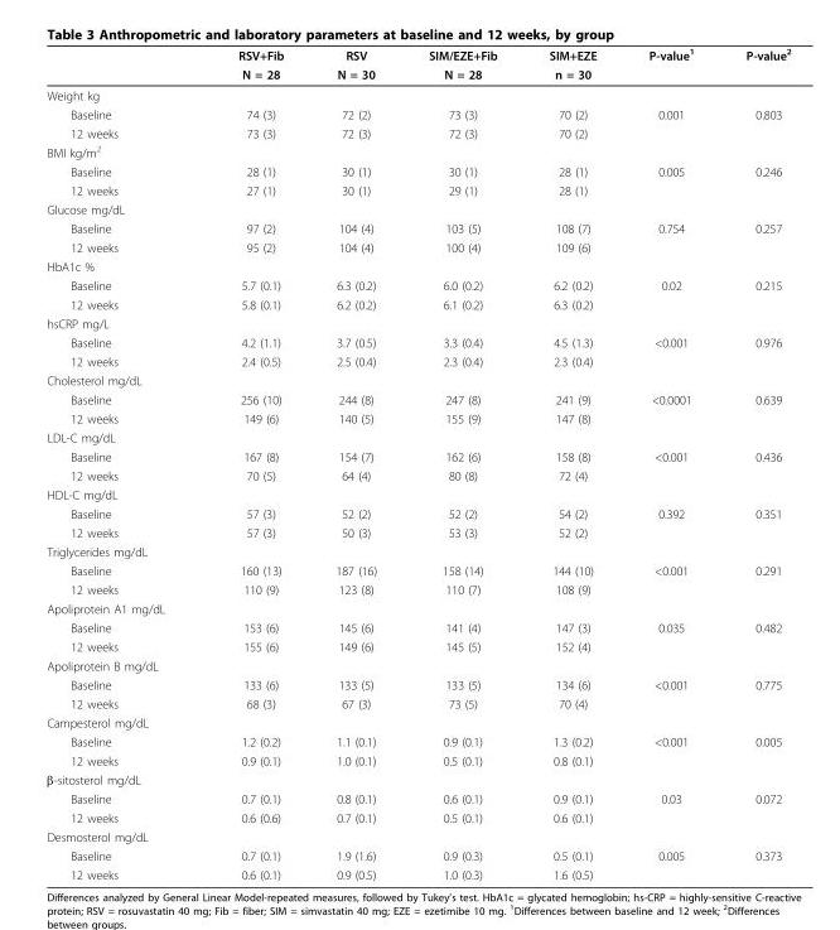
<table><thead><tr><td rowspan="2"></td><td rowspan="2">RSV+Fib N = 28</td><td rowspan="2">RSV N = 30</td><td rowspan="2">SIM/EZE+Fib N = 28</td><td rowspan="2">SIM+EZE n = 30</td><td rowspan="2">P-value<sup>1</sup></td><td rowspan="2">P-value<sup>2</sup></td></tr><tr></tr></thead><tbody><tr><td colspan="7">Weight kg</td></tr><tr><td>Baseline</td><td>74 (3)</td><td>72 (2)</td><td>73 (3)</td><td>70 (2)</td><td>0.001</td><td>0.803</td></tr><tr><td>12 weeks</td><td>73 (3)</td><td>72 (3)</td><td>72 (3)</td><td>70 (2)</td><td></td><td></td></tr><tr><td colspan="7">BMI kg/m<sup>2</sup></td></tr><tr><td>Baseline</td><td>28 (1)</td><td>30 (1)</td><td>30 (1)</td><td>28 (1)</td><td>0.005</td><td>0.246</td></tr><tr><td>12 weeks</td><td>27 (1)</td><td>30 (1)</td><td>29 (1)</td><td>28 (1)</td><td></td><td></td></tr><tr><td colspan="7">Glucose mg/dL</td></tr><tr><td>Baseline</td><td>97 (2)</td><td>104 (4)</td><td>103 (5)</td><td>108 (7)</td><td>0.754</td><td>0.257</td></tr><tr><td>12 weeks</td><td>95 (2)</td><td>104 (4)</td><td>100 (4)</td><td>109 (6)</td><td></td><td></td></tr><tr><td colspan="7">HbA1c %</td></tr><tr><td>Baseline</td><td>5.7 (0.1)</td><td>6.3 (0.2)</td><td>6.0 (0.2)</td><td>6.2 (0.2)</td><td>0.02</td><td>0.215</td></tr><tr><td>12 weeks</td><td>5.8 (0.1)</td><td>6.2 (0.2)</td><td>6.1 (0.2)</td><td>6.3 (0.2)</td><td></td><td></td></tr><tr><td colspan="7">hsCRP mg/L</td></tr><tr><td>Baseline</td><td>4.2 (1.1)</td><td>3.7 (0.5)</td><td>3.3 (0.4)</td><td>4.5 (1.3)</td><td>&lt;0.001</td><td>0.976</td></tr><tr><td>12 weeks</td><td>2.4 (0.5)</td><td>2.5 (0.4)</td><td>2.3 (0.4)</td><td>2.3 (0.4)</td><td></td><td></td></tr><tr><td colspan="7">Cholesterol mg/dL</td></tr><tr><td>Baseline</td><td>256 (10)</td><td>244 (8)</td><td>247 (8)</td><td>241 (9)</td><td>&lt;0.0001</td><td>0.639</td></tr><tr><td>12 weeks</td><td>149 (6)</td><td>140 (5)</td><td>155 (9)</td><td>147 (8)</td><td></td><td></td></tr><tr><td colspan="7">LDL-C mg/dL</td></tr><tr><td>Baseline</td><td>167 (8)</td><td>154 (7)</td><td>162 (6)</td><td>158 (8)</td><td>&lt;0.001</td><td>0.436</td></tr><tr><td>12 weeks</td><td>70 (5)</td><td>64 (4)</td><td>80 (8)</td><td>72 (4)</td><td></td><td></td></tr><tr><td colspan="7">HDL-C mg/dL</td></tr><tr><td>Baseline</td><td>57 (3)</td><td>52 (2)</td><td>52 (2)</td><td>54 (2)</td><td>0.392</td><td>0.351</td></tr><tr><td>12 weeks</td><td>57 (3)</td><td>50 (3)</td><td>53 (3)</td><td>52 (2)</td><td></td><td></td></tr><tr><td colspan="7">Triglycerides mg/dL</td></tr><tr><td>Baseline</td><td>160 (13)</td><td>187 (16)</td><td>158 (14)</td><td>144 (10)</td><td>&lt;0.001</td><td>0.291</td></tr><tr><td>12 weeks</td><td>110 (9)</td><td>123 (8)</td><td>110 (7)</td><td>108 (9)</td><td></td><td></td></tr><tr><td colspan="7">Apoliprotein A1 mg/dL</td></tr><tr><td>Baseline</td><td>153 (6)</td><td>145 (6)</td><td>141 (4)</td><td>147 (3)</td><td>0.035</td><td>0.482</td></tr><tr><td>12 weeks</td><td>155 (6)</td><td>149 (6)</td><td>145 (5)</td><td>152 (4)</td><td></td><td></td></tr><tr><td colspan="7">Apoliprotein B mg/dL</td></tr><tr><td>Baseline</td><td>133 (6)</td><td>133 (5)</td><td>133 (5)</td><td>134 (6)</td><td>&lt;0.001</td><td>0.775</td></tr><tr><td>12 weeks</td><td>68 (3)</td><td>67 (3)</td><td>73 (5)</td><td>70 (4)</td><td></td><td></td></tr><tr><td colspan="7">Campesterol mg/dL</td></tr><tr><td>Baseline</td><td>1.2 (0.2)</td><td>1.1 (0.1)</td><td>0.9 (0.1)</td><td>1.3 (0.2)</td><td>&lt;0.001</td><td>0.005</td></tr><tr><td>12 weeks</td><td>0.9 (0.1)</td><td>1.0 (0.1)</td><td>0.5 (0.1)</td><td>0.8 (0.1)</td><td></td><td></td></tr><tr><td colspan="7">β-sitosterol mg/dL</td></tr><tr><td>Baseline</td><td>0.7 (0.1)</td><td>0.8 (0.1)</td><td>0.6 (0.1)</td><td>0.9 (0.1)</td><td>0.03</td><td>0.072</td></tr><tr><td>12 weeks</td><td>0.6 (0.6)</td><td>0.7 (0.1)</td><td>0.5 (0.1)</td><td>0.6 (0.1)</td><td></td><td></td></tr><tr><td colspan="7">Desmosterol mg/dL</td></tr><tr><td>Baseline</td><td>0.7 (0.1)</td><td>1.9 (1.6)</td><td>0.9 (0.3)</td><td>0.5 (0.1)</td><td>0.005</td><td>0.373</td></tr><tr><td>12 weeks</td><td>0.6 (0.1)</td><td>0.9 (0.5)</td><td>1.0 (0.3)</td><td>1.6 (0.5)</td><td></td><td></td></tr></tbody></table>